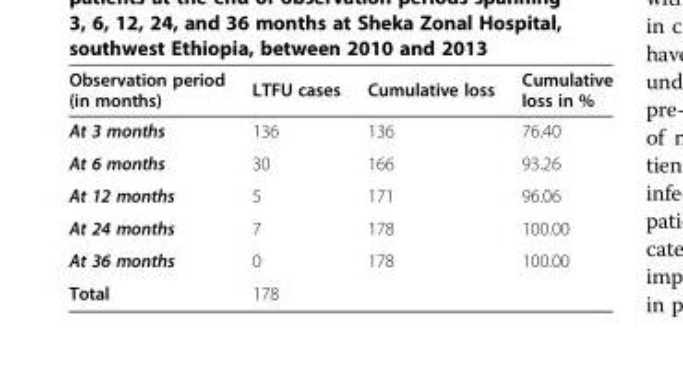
<table><thead><tr><td>Observation period (in months)</td><td>LTFU cases</td><td>Cumulative loss</td><td>Cumulative loss in %</td></tr></thead><tbody><tr><td>At 3 months</td><td>136</td><td>136</td><td>76.40</td></tr><tr><td>At 6 months</td><td>30</td><td>166</td><td>93.26</td></tr><tr><td>At 12 months</td><td>5</td><td>171</td><td>96.06</td></tr><tr><td>At 24 months</td><td>7</td><td>178</td><td>100.00</td></tr><tr><td>At 36 months</td><td>0</td><td>178</td><td>100.00</td></tr><tr><td>Total</td><td>178</td><td></td><td></td></tr></tbody></table>